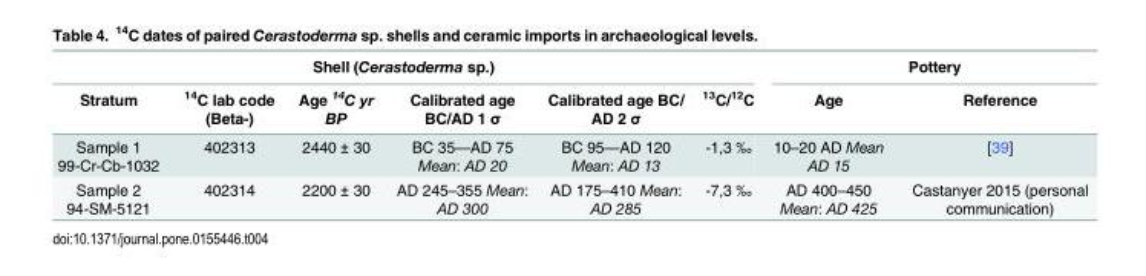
<table><thead><tr><td colspan="6">Shell (Cerastoderma sp.)</td><td colspan="2">Pottery</td></tr><tr><td>Stratum</td><td><sup>14</sup>C lab code (Beta-)</td><td>Age <sup>14</sup>C yr BP</td><td>Calibrated age BC/AD 1 σ</td><td>Calibrated age BC/ AD 2 σ</td><td><sup>13</sup>C/<sup>12</sup>C</td><td>Age</td><td>Reference</td></tr></thead><tbody><tr><td>Sample 1 99-Cr-Cb-1032</td><td>402313</td><td>2440 ± 30</td><td>BC 35—AD 75 Mean: AD 20</td><td>BC 95—AD 120 Mean: AD 13</td><td>-1,3 ‰</td><td>10–20 AD Mean AD 15</td><td>[39]</td></tr><tr><td>Sample 2 94-SM-5121</td><td>402314</td><td>2200 ± 30</td><td>AD 245–355 Mean: AD 300</td><td>AD 175–410 Mean: AD 285</td><td>-7,3 ‰</td><td>AD 400–450 Mean: AD 425</td><td>Castanyer 2015 (personal communication)</td></tr></tbody></table>